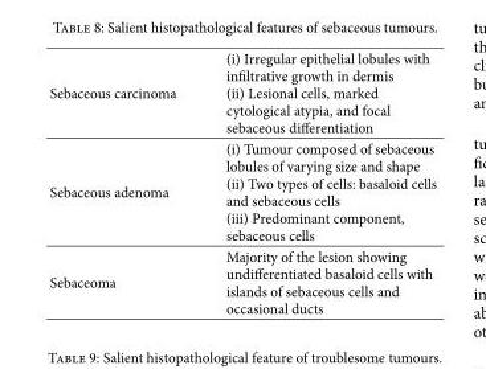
<table><tbody><tr><td>Sebaceous carcinoma</td><td>(i) Irregular epithelial lobules with infiltrative growth in dermis (ii) Lesional cells, marked cytological atypia, and focal sebaceous differentiation</td></tr><tr><td>Sebaceous adenoma</td><td>(i) Tumour composed of sebaceous lobules of varying size and shape (ii) Two types of cells: basaloid cells and sebaceous cells (iii) Predominant component, sebaceous cells</td></tr><tr><td>Sebaceoma</td><td>Majority of the lesion showing undifferentiated basaloid cells with islands of sebaceous cells and occasional ducts</td></tr></tbody></table>